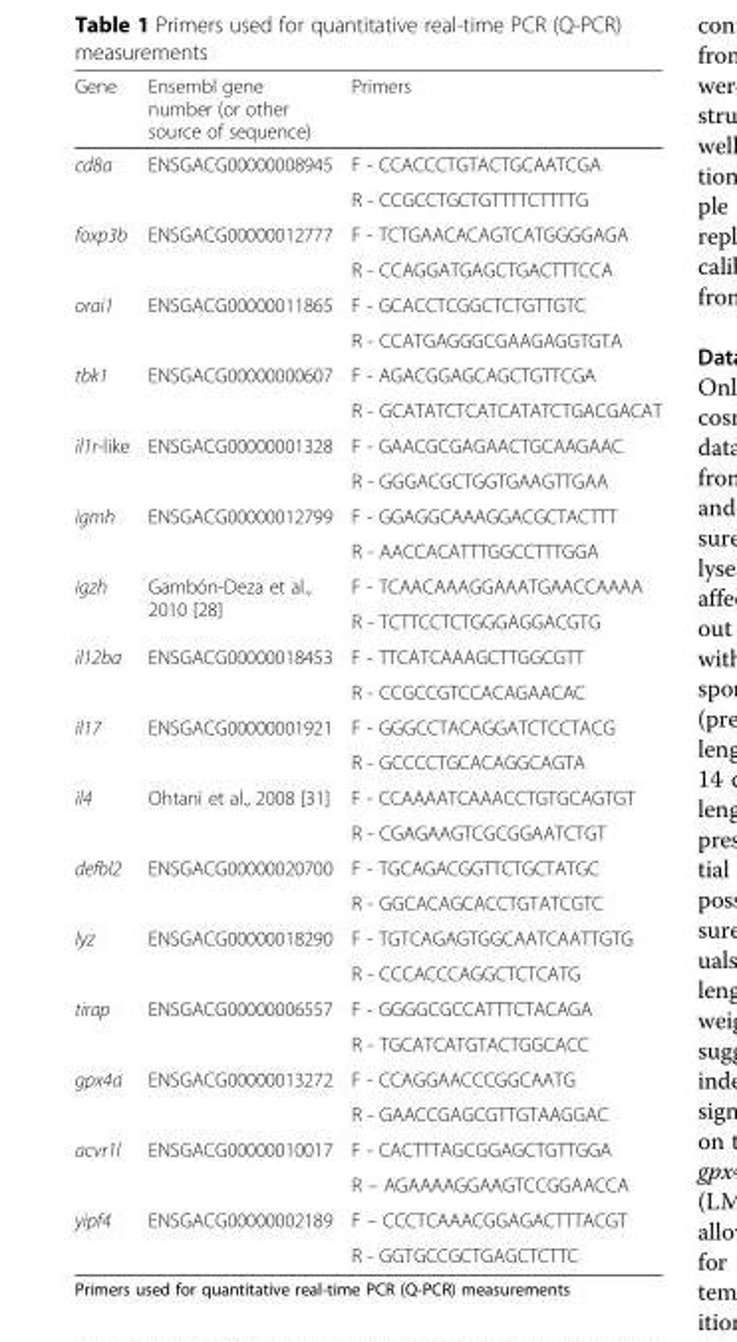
<table><thead><tr><td>Gene</td><td>Ensembl gene number (or other source of sequence)</td><td>Primers</td></tr></thead><tbody><tr><td rowspan="2">cd8a</td><td rowspan="2">ENSGACG00000008945</td><td>F - CCACCCTGTACTGCAATCGA</td></tr><tr><td>R - CCGCCTGCTGTTTTCTTTTG</td></tr><tr><td rowspan="2">foxp3b</td><td rowspan="2">ENSGACG00000012777</td><td>F - TCTGAACACAGTCATGGGGAGA</td></tr><tr><td>R - CCAGGATGAGCTGACTTTCCA</td></tr><tr><td rowspan="2">orai1</td><td rowspan="2">ENSGACG00000011865</td><td>F - GCACCTCGGCTCTGTTGTC</td></tr><tr><td>R - CCATGAGGGCGAAGAGGTGTA</td></tr><tr><td rowspan="2">tbk1</td><td rowspan="2">ENSGACG00000000607</td><td>F - AGACGGAGCAGCTGTTCGA</td></tr><tr><td>R - GCATATCTCATCATATCTGACGACAT</td></tr><tr><td rowspan="2">il1r-like</td><td rowspan="2">ENSGACG00000001328</td><td>F - GAACGCGAGAACTGCAAGAAC</td></tr><tr><td>R - GGGACGCTGGTGAAGTTGAA</td></tr><tr><td rowspan="2">igmh</td><td rowspan="2">ENSGACG00000012799</td><td>F - GGAGGCAAAGGACGCTACTTT</td></tr><tr><td>R - AACCACATTTGGCCTTTGGA</td></tr><tr><td rowspan="2">igzh</td><td rowspan="2">Gambón-Deza et al., 2010 [28]</td><td>F - TCAACAAAGGAAATGAACCAAAA</td></tr><tr><td>R - TCTTCCTCTGGGAGGACGTG</td></tr><tr><td rowspan="2">il12ba</td><td rowspan="2">ENSGACG00000018453</td><td>F - TTCATCAAAGCTTGGCGTT</td></tr><tr><td>R - CCGCCGTCCACAGAACAC</td></tr><tr><td rowspan="2">il17</td><td rowspan="2">ENSGACG00000001921</td><td>F - GGGCCTACAGGATCTCCTACG</td></tr><tr><td>R - GCCCCTGCACAGGCAGTA</td></tr><tr><td rowspan="2">il4</td><td rowspan="2">Ohtani et al., 2008 [31]</td><td>F - CCAAAATCAAACCTGTGCAGTGT</td></tr><tr><td>R - CGAGAAGTCGCGGAATCTGT</td></tr><tr><td rowspan="2">defbl2</td><td rowspan="2">ENSGACG00000020700</td><td>F - TGCAGACGGTTCTGCTATGC</td></tr><tr><td>R - GGCACAGCACCTGTATCGTC</td></tr><tr><td rowspan="2">lyz</td><td rowspan="2">ENSGACG00000018290</td><td>F - TGTCAGAGTGGCAATCAATTGTG</td></tr><tr><td>R - CCCACCCAGGCTCTCATG</td></tr><tr><td rowspan="2">tirap</td><td rowspan="2">ENSGACG00000006557</td><td>F - GGGGCGCCATTTCTACAGA</td></tr><tr><td>R - TGCATCATGTACTGGCACC</td></tr><tr><td rowspan="2">gpx4a</td><td rowspan="2">ENSGACG00000013272</td><td>F - CCAGGAACCCGGCAATG</td></tr><tr><td>R - GAACCGAGCGTTGTAAGGAC</td></tr><tr><td rowspan="2">acvr1l</td><td rowspan="2">ENSGACG00000010017</td><td>F - CACTTTAGCGGAGCTGTTGGA</td></tr><tr><td>R – AGAAAAGGAAGTCCGGAACCA</td></tr><tr><td rowspan="2">yipf4</td><td rowspan="2">ENSGACG00000002189</td><td>F – CCCTCAAACGGAGACTTTACGT</td></tr><tr><td>R - GGTGCCGCTGAGCTCTTC</td></tr></tbody></table>